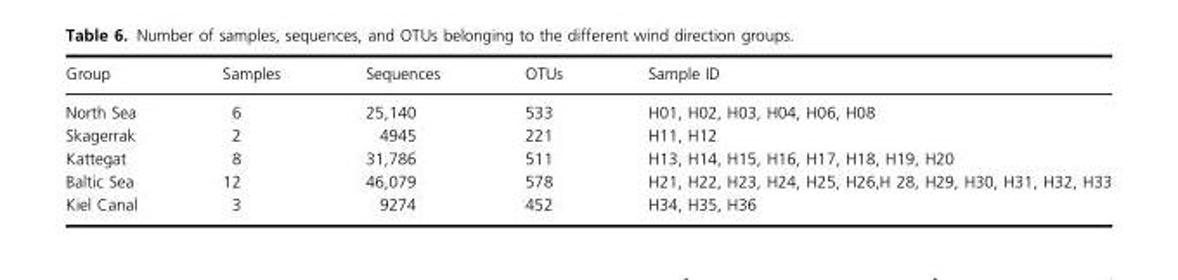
<table><thead><tr><td>Group</td><td>Samples</td><td>Sequences</td><td>OTUs</td><td>Sample ID</td></tr></thead><tbody><tr><td>North Sea</td><td>6</td><td>25,140</td><td>533</td><td>H01, H02, H03, H04, H06, H08</td></tr><tr><td>Skagerrak</td><td>2</td><td>4945</td><td>221</td><td>H11, H12</td></tr><tr><td>Kattegat</td><td>8</td><td>31,786</td><td>511</td><td>H13, H14, H15, H16, H17, H18, H19, H20</td></tr><tr><td>Baltic Sea</td><td>12</td><td>46,079</td><td>578</td><td>H21, H22, H23, H24, H25, H26,H 28, H29, H30, H31, H32, H33</td></tr><tr><td>Kiel Canal</td><td>3</td><td>9274</td><td>452</td><td>H34, H35, H36</td></tr></tbody></table>